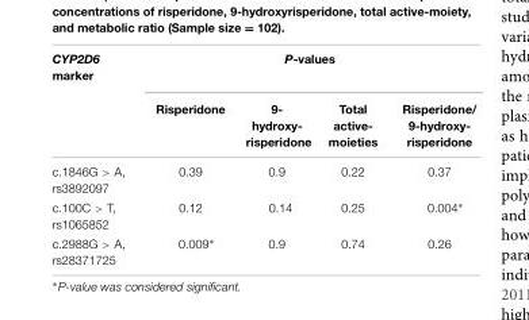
<table><thead><tr><td rowspan="2">CYP2D6 marker</td><td colspan="4">P-values</td></tr><tr><td>Risperidone</td><td>9- hydroxy- risperidone</td><td>Total active- moieties</td><td>Risperidone/ 9-hydroxy- risperidone</td></tr></thead><tbody><tr><td>c.1846G &gt; A, rs3892097</td><td>0.39</td><td>0.9</td><td>0.22</td><td>0.37</td></tr><tr><td>c.100C &gt; T, rs1065852</td><td>0.12</td><td>0.14</td><td>0.25</td><td>0.004∗</td></tr><tr><td>c.2988G &gt; A, rs28371725</td><td>0.009∗</td><td>0.9</td><td>0.74</td><td>0.26</td></tr></tbody></table>